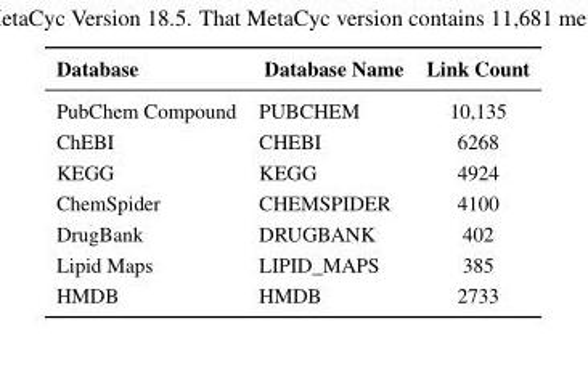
<table><thead><tr><td>Database</td><td>Database Name</td><td>Link Count</td></tr></thead><tbody><tr><td>PubChem Compound</td><td>PUBCHEM</td><td>10,135</td></tr><tr><td>ChEBI</td><td>CHEBI</td><td>6268</td></tr><tr><td>KEGG</td><td>KEGG</td><td>4924</td></tr><tr><td>ChemSpider</td><td>CHEMSPIDER</td><td>4100</td></tr><tr><td>DrugBank</td><td>DRUGBANK</td><td>402</td></tr><tr><td>Lipid Maps</td><td>LIPID_MAPS</td><td>385</td></tr><tr><td>HMDB</td><td>HMDB</td><td>2733</td></tr></tbody></table>